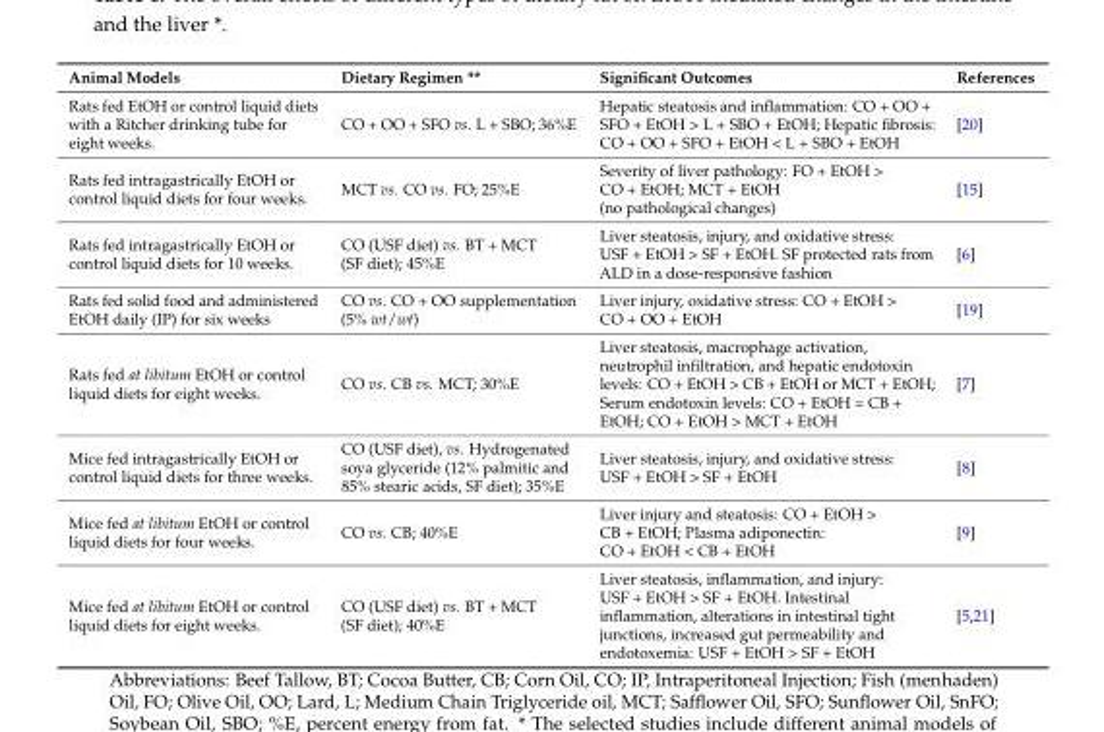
<table><thead><tr><td>Animal Models</td><td>Dietary Regimen **</td><td>Significant Outcomes</td><td>References</td></tr></thead><tbody><tr><td>Rats fed EtOH or control liquid diets with a Ritcher drinking tube for eight weeks.</td><td>CO + OO + SFO vs. L + SBO; 36%E</td><td>Hepatic steatosis and inflammation: CO + OO + SFO + EtOH &gt; L + SBO + EtOH; Hepatic fibrosis: CO + OO + SFO + EtOH &lt; L + SBO + EtOH</td><td>[20]</td></tr><tr><td>Rats fed intragastrically EtOH or control liquid diets for four weeks.</td><td>MCT vs. CO vs. FO; 25%E</td><td>Severity of liver pathology: FO + EtOH &gt; CO + EtOH; MCT + EtOH (no pathological changes)</td><td>[15]</td></tr><tr><td>Rats fed intragastrically EtOH or control liquid diets for 10 weeks.</td><td>CO (USF diet) vs. BT + MCT (SF diet); 45%E</td><td>Liver steatosis, injury, and oxidative stress: USF + EtOH &gt; SF + EtOH. SF protected rats from ALD in a dose-responsive fashion</td><td>[6]</td></tr><tr><td>Rats fed solid food and administered EtOH daily (IP) for six weeks</td><td>CO vs. CO + OO supplementation (5% wt/wt)</td><td>Liver injury, oxidative stress: CO + EtOH &gt; CO + OO + EtOH</td><td>[19]</td></tr><tr><td>Rats fed at libitum EtOH or control liquid diets for eight weeks.</td><td>CO vs. CB vs. MCT; 30%E</td><td>Liver steatosis, macrophage activation, neutrophil infiltration, and hepatic endotoxin levels: CO + EtOH &gt; CB + EtOH or MCT + EtOH; Serum endotoxin levels: CO + EtOH = CB + EtOH; CO + EtOH &gt; MCT + EtOH</td><td>[7]</td></tr><tr><td>Mice fed intragastrically EtOH or control liquid diets for three weeks.</td><td>CO (USF diet), vs. Hydrogenated soya glyceride (12% palmitic and 85% stearic acids, SF diet); 35%E</td><td>Liver steatosis, injury, and oxidative stress: USF + EtOH &gt; SF + EtOH</td><td>[8]</td></tr><tr><td>Mice fed at libitum EtOH or control liquid diets for four weeks.</td><td>CO vs. CB; 40%E</td><td>Liver injury and steatosis: CO + EtOH &gt; CB + EtOH; Plasma adiponectin: CO + EtOH &lt; CB + EtOH</td><td>[9]</td></tr><tr><td>Mice fed at libitum EtOH or control liquid diets for eight weeks.</td><td>CO (USF diet) vs. BT + MCT (SF diet); 40%E</td><td>Liver steatosis, inflammation, and injury: USF + EtOH &gt; SF + EtOH. Intestinal inflammation, alterations in intestinal tight junctions, increased gut permeability and endotoxemia: USF + EtOH &gt; SF + EtOH</td><td>[5,21]</td></tr></tbody></table>